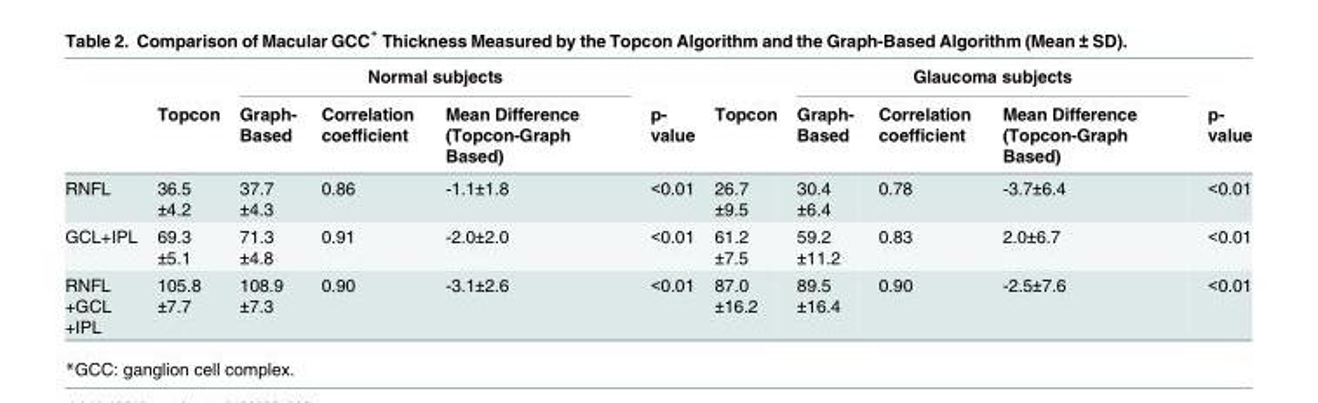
<table><thead><tr><td rowspan="2"></td><td rowspan="2">Topcon</td><td colspan="3">Normal subjects</td><td rowspan="2">p- value</td><td rowspan="2">Topcon</td><td colspan="3">Glaucoma subjects</td><td rowspan="2">p- value</td></tr><tr><td>Graph- Based</td><td>Correlation coefficient</td><td>Mean Difference (Topcon-Graph Based)</td><td>Graph- Based</td><td>Correlation coefficient</td><td>Mean Difference (Topcon-Graph Based)</td></tr></thead><tbody><tr><td>RNFL</td><td>36.5 ±4.2</td><td>37.7 ±4.3</td><td>0.86</td><td>-1.1±1.8</td><td>&lt;0.01</td><td>26.7 ±9.5</td><td>30.4 ±6.4</td><td>0.78</td><td>-3.7±6.4</td><td>&lt;0.01</td></tr><tr><td>GCL+IPL</td><td>69.3 ±5.1</td><td>71.3 ±4.8</td><td>0.91</td><td>-2.0±2.0</td><td>&lt;0.01</td><td>61.2 ±7.5</td><td>59.2 ±11.2</td><td>0.83</td><td>2.0±6.7</td><td>&lt;0.01</td></tr><tr><td>RNFL +GCL +IPL</td><td>105.8 ±7.7</td><td>108.9 ±7.3</td><td>0.90</td><td>-3.1±2.6</td><td>&lt;0.01</td><td>87.0 ±16.2</td><td>89.5 ±16.4</td><td>0.90</td><td>-2.5±7.6</td><td>&lt;0.01</td></tr></tbody></table>